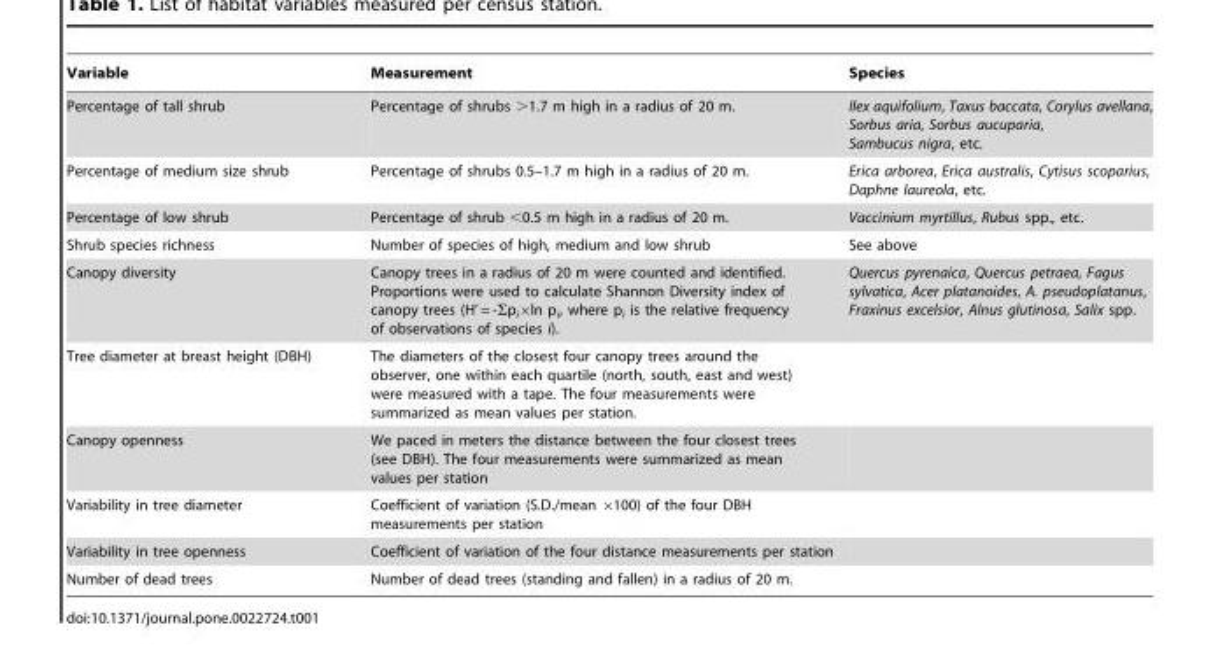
<table><thead><tr><td>Variable</td><td>Measurement</td><td>Species</td></tr></thead><tbody><tr><td>Percentage of tall shrub</td><td>Percentage of shrubs &gt;1.7 m high in a radius of 20 m.</td><td>Ilex aquifolium, Taxus baccata, Corylus avellana, Sorbus aria, Sorbus aucuparia, Sambucus nigra, etc.</td></tr><tr><td>Percentage of medium size shrub</td><td>Percentage of shrubs 0.5–1.7 m high in a radius of 20 m.</td><td>Erica arborea, Erica australis, Cytisus scoparius, Daphne laureola, etc.</td></tr><tr><td>Percentage of low shrub</td><td>Percentage of shrub &lt;0.5 m high in a radius of 20 m.</td><td>Vaccinium myrtillus, Rubus spp., etc.</td></tr><tr><td>Shrub species richness</td><td>Number of species of high, medium and low shrub</td><td>See above</td></tr><tr><td>Canopy diversity</td><td>Canopy trees in a radius of 20 m were counted and identified. Proportions were used to calculate Shannon Diversity index of canopy trees (H’ = -Σp<sub>i</sub>×ln p<sub>i</sub>, where p<sub>i</sub> is the relative frequency of observations of species i).</td><td>Quercus pyrenaica, Quercus petraea, Fagus sylvatica, Acer platanoides, A. pseudoplatanus, Fraxinus excelsior, Alnus glutinosa, Salix spp.</td></tr><tr><td>Tree diameter at breast height (DBH)</td><td>The diameters of the closest four canopy trees around the observer, one within each quartile (north, south, east and west) were measured with a tape. The four measurements were summarized as mean values per station.</td><td></td></tr><tr><td>Canopy openness</td><td>We paced in meters the distance between the four closest trees (see DBH). The four measurements were summarized as mean values per station</td><td></td></tr><tr><td>Variability in tree diameter</td><td>Coefficient of variation (S.D./mean ×100) of the four DBH measurements per station</td><td></td></tr><tr><td>Variability in tree openness</td><td>Coefficient of variation of the four distance measurements per station</td><td></td></tr><tr><td>Number of dead trees</td><td>Number of dead trees (standing and fallen) in a radius of 20 m.</td><td></td></tr></tbody></table>